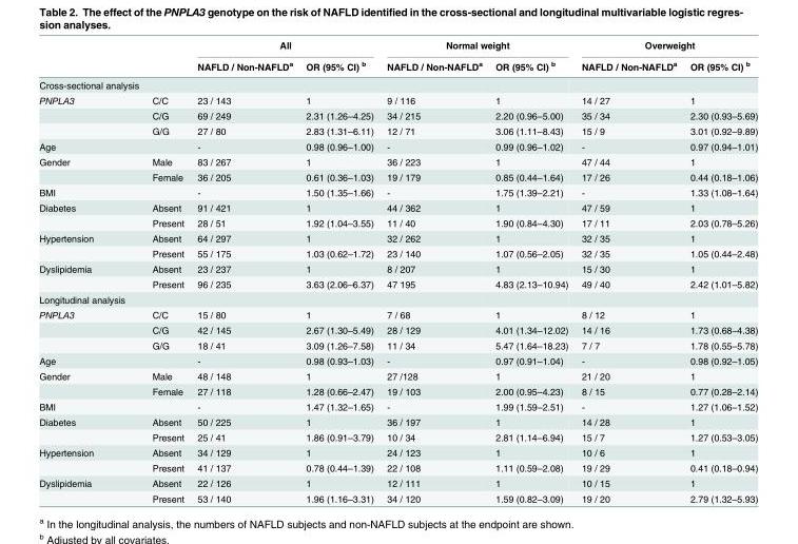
<table><thead><tr><td rowspan="2"></td><td rowspan="2"></td><td colspan="2">All</td><td colspan="2">Normal weight</td><td colspan="2">Overweight</td></tr><tr><td>NAFLD / Non-NAFLD<sup>a</sup></td><td>OR (95% CI) <sup>b</sup></td><td>NAFLD / Non-NAFLD<sup>a</sup></td><td>OR (95% CI) <sup>b</sup></td><td>NAFLD / Non-NAFLD<sup>a</sup></td><td>OR (95% CI) <sup>b</sup></td></tr></thead><tbody><tr><td colspan="8">Cross-sectional analysis</td></tr><tr><td rowspan="3">PNPLA3</td><td>C/C</td><td>23 / 143</td><td>1</td><td>9 / 116</td><td>1</td><td>14 / 27</td><td>1</td></tr><tr><td>C/G</td><td>69 / 249</td><td>2.31 (1.26–4.25)</td><td>34 / 215</td><td>2.20 (0.96–5.00)</td><td>35 / 34</td><td>2.30 (0.93–5.69)</td></tr><tr><td>G/G</td><td>27 / 80</td><td>2.83 (1.31–6.11)</td><td>12 / 71</td><td>3.06 (1.11–8.43)</td><td>15 / 9</td><td>3.01 (0.92–9.89)</td></tr><tr><td>Age</td><td></td><td>-</td><td>0.98 (0.96–1.00)</td><td>-</td><td>0.99 (0.96–1.02)</td><td>-</td><td>0.97 (0.94–1.01)</td></tr><tr><td rowspan="2">Gender</td><td>Male</td><td>83 / 267</td><td>1</td><td>36 / 223</td><td>1</td><td>47 / 44</td><td>1</td></tr><tr><td>Female</td><td>36 / 205</td><td>0.61 (0.36–1.03)</td><td>19 / 179</td><td>0.85 (0.44–1.64)</td><td>17 / 26</td><td>0.44 (0.18–1.06)</td></tr><tr><td>BMI</td><td></td><td>-</td><td>1.50 (1.35–1.66)</td><td>-</td><td>1.75 (1.39–2.21)</td><td>-</td><td>1.33 (1.08–1.64)</td></tr><tr><td rowspan="2">Diabetes</td><td>Absent</td><td>91 / 421</td><td>1</td><td>44 / 362</td><td>1</td><td>47 / 59</td><td>1</td></tr><tr><td>Present</td><td>28 / 51</td><td>1.92 (1.04–3.55)</td><td>11 / 40</td><td>1.90 (0.84–4.30)</td><td>17 / 11</td><td>2.03 (0.78–5.26)</td></tr><tr><td rowspan="2">Hypertension</td><td>Absent</td><td>64 / 297</td><td>1</td><td>32 / 262</td><td>1</td><td>32 / 35</td><td>1</td></tr><tr><td>Present</td><td>55 / 175</td><td>1.03 (0.62–1.72)</td><td>23 / 140</td><td>1.07 (0.56–2.05)</td><td>32 / 35</td><td>1.05 (0.44–2.48)</td></tr><tr><td rowspan="2">Dyslipidemia</td><td>Absent</td><td>23 / 237</td><td>1</td><td>8 / 207</td><td>1</td><td>15 / 30</td><td>1</td></tr><tr><td>Present</td><td>96 / 235</td><td>3.63 (2.06–6.37)</td><td>47 195</td><td>4.83 (2.13–10.94)</td><td>49 / 40</td><td>2.42 (1.01–5.82)</td></tr><tr><td colspan="8">Longitudinal analysis</td></tr><tr><td rowspan="3">PNPLA3</td><td>C/C</td><td>15 / 80</td><td>1</td><td>7 / 68</td><td>1</td><td>8 / 12</td><td>1</td></tr><tr><td>C/G</td><td>42 / 145</td><td>2.67 (1.30–5.49)</td><td>28 / 129</td><td>4.01 (1.34–12.02)</td><td>14 / 16</td><td>1.73 (0.68–4.38)</td></tr><tr><td>G/G</td><td>18 / 41</td><td>3.09 (1.26–7.58)</td><td>11 / 34</td><td>5.47 (1.64–18.23)</td><td>7 / 7</td><td>1.78 (0.55–5.78)</td></tr><tr><td>Age</td><td></td><td>-</td><td>0.98 (0.93–1.03)</td><td>-</td><td>0.97 (0.91–1.04)</td><td>-</td><td>0.98 (0.92–1.05)</td></tr><tr><td rowspan="2">Gender</td><td>Male</td><td>48 / 148</td><td>1</td><td>27 /128</td><td>1</td><td>21 / 20</td><td>1</td></tr><tr><td>Female</td><td>27 / 118</td><td>1.28 (0.66–2.47)</td><td>19 / 103</td><td>2.00 (0.95–4.23)</td><td>8 / 15</td><td>0.77 (0.28–2.14)</td></tr><tr><td>BMI</td><td></td><td>-</td><td>1.47 (1.32–1.65)</td><td>-</td><td>1.99 (1.59–2.51)</td><td>-</td><td>1.27 (1.06–1.52)</td></tr><tr><td rowspan="2">Diabetes</td><td>Absent</td><td>50 / 225</td><td>1</td><td>36 / 197</td><td>1</td><td>14 / 28</td><td>1</td></tr><tr><td>Present</td><td>25 / 41</td><td>1.86 (0.91–3.79)</td><td>10 / 34</td><td>2.81 (1.14–6.94)</td><td>15 / 7</td><td>1.27 (0.53–3.05)</td></tr><tr><td rowspan="2">Hypertension</td><td>Absent</td><td>34 / 129</td><td>1</td><td>24 / 123</td><td>1</td><td>10 / 6</td><td>1</td></tr><tr><td>Present</td><td>41 / 137</td><td>0.78 (0.44–1.39)</td><td>22 / 108</td><td>1.11 (0.59–2.08)</td><td>19 / 29</td><td>0.41 (0.18–0.94)</td></tr><tr><td rowspan="2">Dyslipidemia</td><td>Absent</td><td>22 / 126</td><td>1</td><td>12 / 111</td><td>1</td><td>10 / 15</td><td>1</td></tr><tr><td>Present</td><td>53 / 140</td><td>1.96 (1.16–3.31)</td><td>34 / 120</td><td>1.59 (0.82–3.09)</td><td>19 / 20</td><td>2.79 (1.32–5.93)</td></tr></tbody></table>